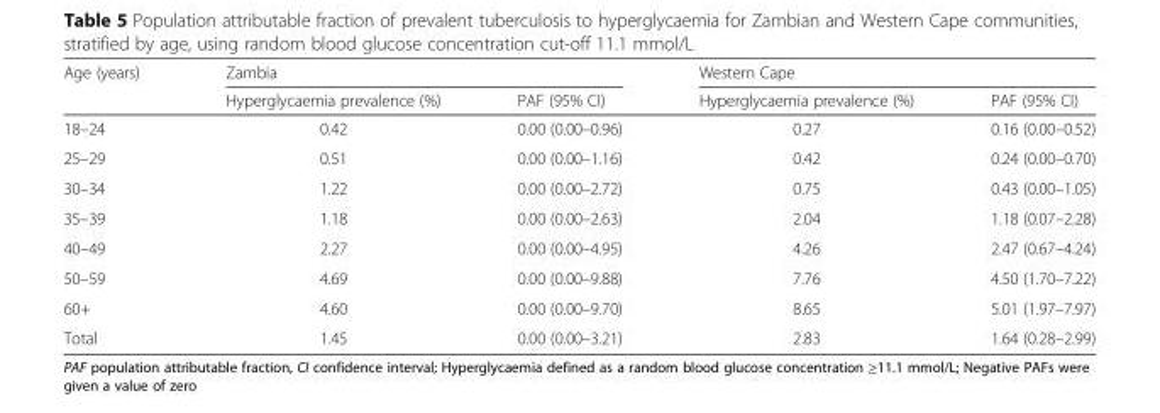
<table><thead><tr><td rowspan="2">Age (years)</td><td colspan="2">Zambia</td><td colspan="2">Western Cape</td></tr><tr><td>Hyperglycaemia prevalence (%)</td><td>PAF (95% CI)</td><td>Hyperglycaemia prevalence (%)</td><td>PAF (95% CI)</td></tr></thead><tbody><tr><td>18–24</td><td>0.42</td><td>0.00 (0.00–0.96)</td><td>0.27</td><td>0.16 (0.00–0.52)</td></tr><tr><td>25–29</td><td>0.51</td><td>0.00 (0.00–1.16)</td><td>0.42</td><td>0.24 (0.00–0.70)</td></tr><tr><td>30–34</td><td>1.22</td><td>0.00 (0.00–2.72)</td><td>0.75</td><td>0.43 (0.00–1.05)</td></tr><tr><td>35–39</td><td>1.18</td><td>0.00 (0.00–2.63)</td><td>2.04</td><td>1.18 (0.07–2.28)</td></tr><tr><td>40–49</td><td>2.27</td><td>0.00 (0.00–4.95)</td><td>4.26</td><td>2.47 (0.67–4.24)</td></tr><tr><td>50–59</td><td>4.69</td><td>0.00 (0.00–9.88)</td><td>7.76</td><td>4.50 (1.70–7.22)</td></tr><tr><td>60+</td><td>4.60</td><td>0.00 (0.00–9.70)</td><td>8.65</td><td>5.01 (1.97–7.97)</td></tr><tr><td>Total</td><td>1.45</td><td>0.00 (0.00–3.21)</td><td>2.83</td><td>1.64 (0.28–2.99)</td></tr></tbody></table>